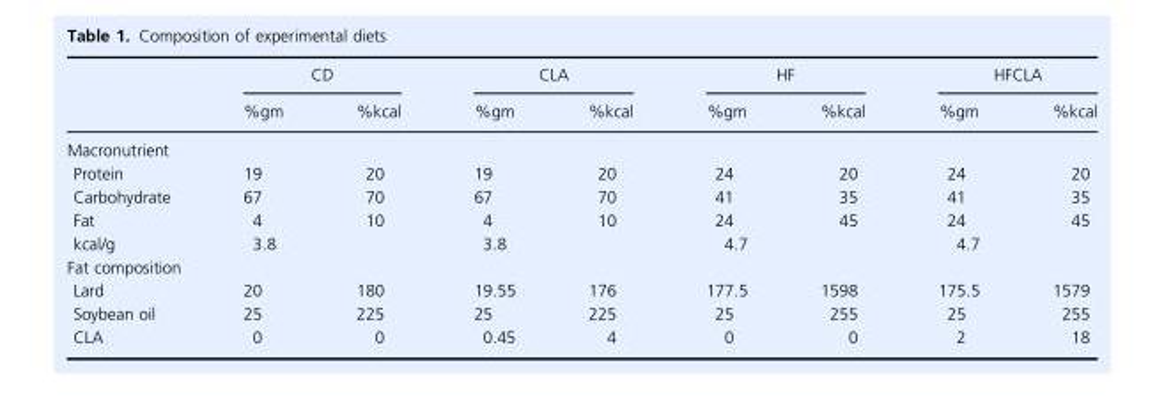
<table><thead><tr><td rowspan="2"></td><td colspan="2">CD</td><td colspan="2">CLA</td><td colspan="2">HF</td><td colspan="2">HFCLA</td></tr><tr><td>%gm</td><td>%kcal</td><td>%gm</td><td>%kcal</td><td>%gm</td><td>%kcal</td><td>%gm</td><td>%kcal</td></tr></thead><tbody><tr><td colspan="9">Macronutrient</td></tr><tr><td>Protein</td><td>19</td><td>20</td><td>19</td><td>20</td><td>24</td><td>20</td><td>24</td><td>20</td></tr><tr><td>Carbohydrate</td><td>67</td><td>70</td><td>67</td><td>70</td><td>41</td><td>35</td><td>41</td><td>35</td></tr><tr><td>Fat</td><td>4</td><td>10</td><td>4</td><td>10</td><td>24</td><td>45</td><td>24</td><td>45</td></tr><tr><td>kcal/g</td><td>3.8</td><td></td><td>3.8</td><td></td><td>4.7</td><td></td><td>4.7</td><td></td></tr><tr><td colspan="9">Fat composition</td></tr><tr><td>Lard</td><td>20</td><td>180</td><td>19.55</td><td>176</td><td>177.5</td><td>1598</td><td>175.5</td><td>1579</td></tr><tr><td>Soybean oil</td><td>25</td><td>225</td><td>25</td><td>225</td><td>25</td><td>255</td><td>25</td><td>255</td></tr><tr><td>CLA</td><td>0</td><td>0</td><td>0.45</td><td>4</td><td>0</td><td>0</td><td>2</td><td>18</td></tr></tbody></table>